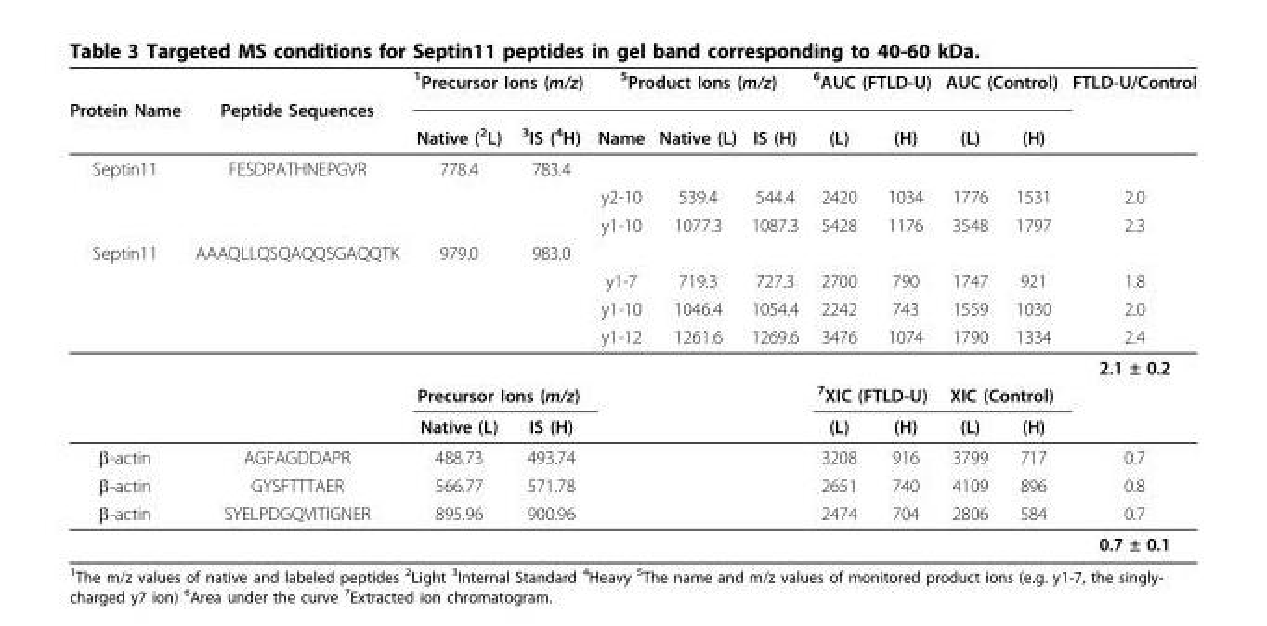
<table><thead><tr><td rowspan="3">Protein Name</td><td rowspan="3">Peptide Sequences</td><td colspan="2"><sup>1</sup>Precursor Ions (m/z)</td><td colspan="3"><sup>5</sup>Product Ions (m/z)</td><td colspan="2"><sup>6</sup>AUC (FTLD-U)</td><td colspan="2">AUC (Control)</td><td rowspan="3">FTLD-U/Control</td></tr><tr><td rowspan="2">Native (<sup>2</sup>L)</td><td rowspan="2"><sup>3</sup>IS (<sup>4</sup>H)</td><td rowspan="2">Name</td><td rowspan="2">Native (L)</td><td rowspan="2">IS (H)</td><td rowspan="2">(L)</td><td rowspan="2">(H)</td><td rowspan="2">(L)</td><td rowspan="2">(H)</td></tr><tr></tr></thead><tbody><tr><td rowspan="3">Septin11</td><td>FESDPATHNEPGVR</td><td>778.4</td><td>783.4</td><td></td><td></td><td></td><td></td><td></td><td></td><td></td><td></td></tr><tr><td></td><td></td><td></td><td>y2-10</td><td>539.4</td><td>544.4</td><td>2420</td><td>1034</td><td>1776</td><td>1531</td><td>2.0</td></tr><tr><td></td><td></td><td></td><td>y1-10</td><td>1077.3</td><td>1087.3</td><td>5428</td><td>1176</td><td>3548</td><td>1797</td><td>2.3</td></tr><tr><td rowspan="7">Septin11</td><td>AAAQLLQSQAQQSGAQQTK</td><td>979.0</td><td>983.0</td><td></td><td></td><td></td><td></td><td></td><td></td><td></td><td></td></tr><tr><td></td><td></td><td></td><td>y1-7</td><td>719.3</td><td>727.3</td><td>2700</td><td>790</td><td>1747</td><td>921</td><td>1.8</td></tr><tr><td></td><td></td><td></td><td>y1-10</td><td>1046.4</td><td>1054.4</td><td>2242</td><td>743</td><td>1559</td><td>1030</td><td>2.0</td></tr><tr><td></td><td></td><td></td><td>y1-12</td><td>1261.6</td><td>1269.6</td><td>3476</td><td>1074</td><td>1790</td><td>1334</td><td>2.4</td></tr><tr><td></td><td></td><td></td><td></td><td></td><td></td><td></td><td></td><td></td><td></td><td>2.1 ± 0.2</td></tr><tr><td></td><td colspan="2">Precursor Ions (m/z)</td><td></td><td></td><td></td><td colspan="2"><sup>7</sup>XIC (FTLD-U)</td><td colspan="2">XIC (Control)</td><td></td></tr><tr><td></td><td>Native (L)</td><td>IS (H)</td><td></td><td></td><td></td><td>(L)</td><td>(H)</td><td>(L)</td><td>(H)</td><td></td></tr><tr><td>β-actin</td><td>AGFAGDDAPR</td><td>488.73</td><td>493.74</td><td></td><td></td><td></td><td>3208</td><td>916</td><td>3799</td><td>717</td><td>0.7</td></tr><tr><td>β-actin</td><td>GYSFTTTAER</td><td>566.77</td><td>571.78</td><td></td><td></td><td></td><td>2651</td><td>740</td><td>4109</td><td>896</td><td>0.8</td></tr><tr><td rowspan="2">β-actin</td><td>SYELPDGQVITIGNER</td><td>895.96</td><td>900.96</td><td></td><td></td><td></td><td>2474</td><td>704</td><td>2806</td><td>584</td><td>0.7</td></tr><tr><td></td><td></td><td></td><td></td><td></td><td></td><td></td><td></td><td></td><td></td><td>0.7 ± 0.1</td></tr></tbody></table>